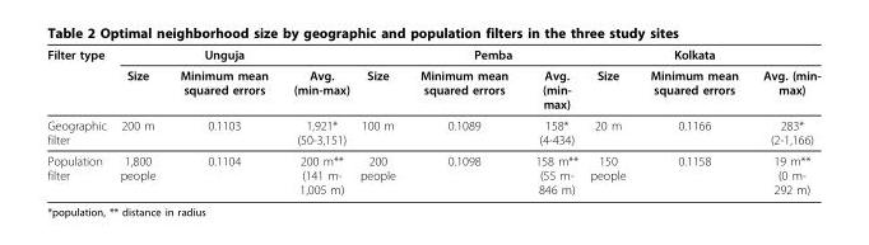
<table><thead><tr><td rowspan="2">Filter type</td><td rowspan="2">Size</td><td rowspan="2">Unguja Minimum mean squared errors</td><td rowspan="2">Avg. (min-max)</td><td rowspan="2">Size</td><td colspan="2">Pemba</td><td rowspan="2">Size</td><td rowspan="2">Kolkata Minimum mean squared errors</td><td rowspan="2">Avg. (min- max)</td></tr><tr><td>Minimum mean squared errors</td><td>Avg. (min- max)</td></tr></thead><tbody><tr><td>Geographic filter</td><td>200 m</td><td>0.1103</td><td>1,921* (50-3,151)</td><td>100 m</td><td>0.1089</td><td>158* (4-434)</td><td>20 m</td><td>0.1166</td><td>283* (2-1,166)</td></tr><tr><td>Population filter</td><td>1,800 people</td><td>0.1104</td><td>200 m** (141 m- 1,005 m)</td><td>200 people</td><td>0.1098</td><td>158 m** (55 m- 846 m)</td><td>150 people</td><td>0.1158</td><td>19 m** (0 m- 292 m)</td></tr></tbody></table>